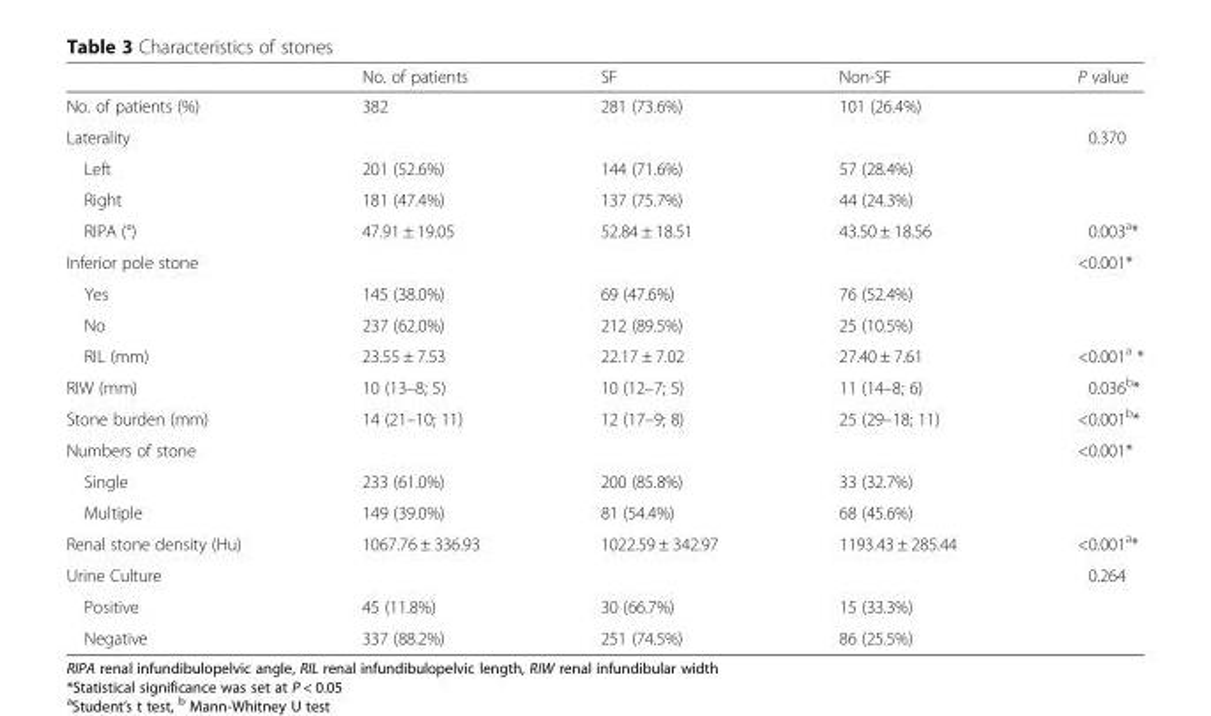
<table><thead><tr><td></td><td>No. of patients</td><td>SF</td><td>Non-SF</td><td>P value</td></tr></thead><tbody><tr><td>No. of patients (%)</td><td>382</td><td>281 (73.6%)</td><td>101 (26.4%)</td><td></td></tr><tr><td>Laterality</td><td></td><td></td><td></td><td>0.370</td></tr><tr><td>Left</td><td>201 (52.6%)</td><td>144 (71.6%)</td><td>57 (28.4%)</td><td></td></tr><tr><td>Right</td><td>181 (47.4%)</td><td>137 (75.7%)</td><td>44 (24.3%)</td><td></td></tr><tr><td>RIPA (°)</td><td>47.91 ± 19.05</td><td>52.84 ± 18.51</td><td>43.50 ± 18.56</td><td>0.003<sup>a</sup>*</td></tr><tr><td>Inferior pole stone</td><td></td><td></td><td></td><td>&lt;0.001*</td></tr><tr><td>Yes</td><td>145 (38.0%)</td><td>69 (47.6%)</td><td>76 (52.4%)</td><td></td></tr><tr><td>No</td><td>237 (62.0%)</td><td>212 (89.5%)</td><td>25 (10.5%)</td><td></td></tr><tr><td>RIL (mm)</td><td>23.55 ± 7.53</td><td>22.17 ± 7.02</td><td>27.40 ± 7.61</td><td>&lt;0.001<sup>a</sup> *</td></tr><tr><td>RIW (mm)</td><td>10 (13–8; 5)</td><td>10 (12–7; 5)</td><td>11 (14–8; 6)</td><td>0.036<sup>b</sup>*</td></tr><tr><td>Stone burden (mm)</td><td>14 (21–10; 11)</td><td>12 (17–9; 8)</td><td>25 (29–18; 11)</td><td>&lt;0.001<sup>b</sup>*</td></tr><tr><td>Numbers of stone</td><td></td><td></td><td></td><td>&lt;0.001*</td></tr><tr><td>Single</td><td>233 (61.0%)</td><td>200 (85.8%)</td><td>33 (32.7%)</td><td></td></tr><tr><td>Multiple</td><td>149 (39.0%)</td><td>81 (54.4%)</td><td>68 (45.6%)</td><td></td></tr><tr><td>Renal stone density (Hu)</td><td>1067.76 ± 336.93</td><td>1022.59 ± 342.97</td><td>1193.43 ± 285.44</td><td>&lt;0.001<sup>a</sup>*</td></tr><tr><td>Urine Culture</td><td></td><td></td><td></td><td>0.264</td></tr><tr><td>Positive</td><td>45 (11.8%)</td><td>30 (66.7%)</td><td>15 (33.3%)</td><td></td></tr><tr><td>Negative</td><td>337 (88.2%)</td><td>251 (74.5%)</td><td>86 (25.5%)</td><td></td></tr></tbody></table>